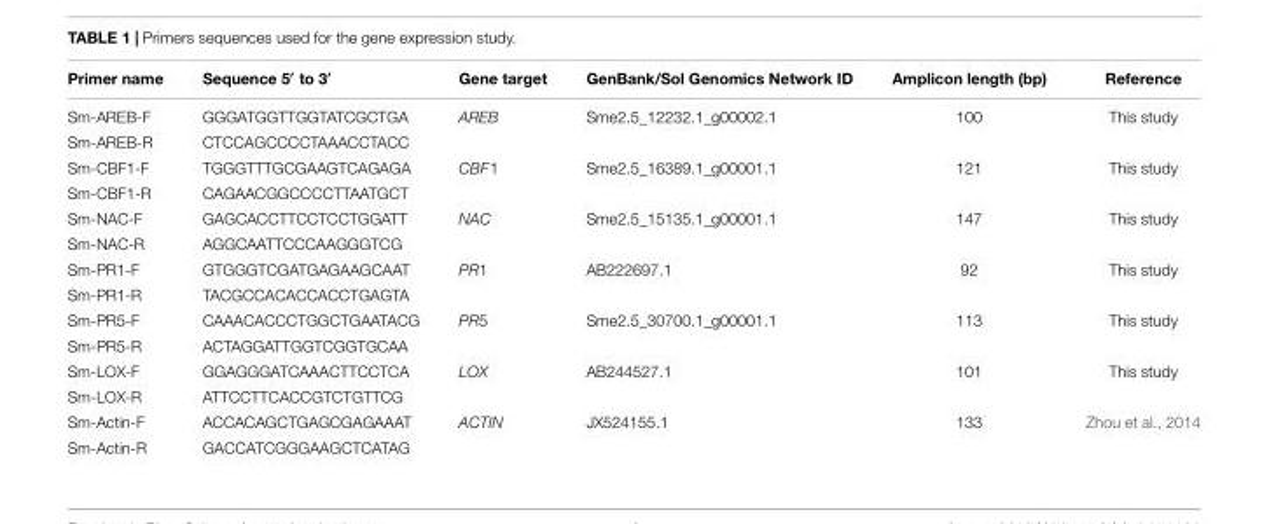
<table><thead><tr><td>Primer name</td><td>Sequence 5′ to 3′</td><td>Gene target</td><td>GenBank/Sol Genomics Network ID</td><td>Amplicon length (bp)</td><td>Reference</td></tr></thead><tbody><tr><td>Sm-AREB-F</td><td>GGGATGGTTGGTATCGCTGA</td><td>AREB</td><td>Sme2.5_12232.1_g00002.1</td><td>100</td><td>This study</td></tr><tr><td>Sm-AREB-R</td><td>CTCCAGCCCCTAAACCTACC</td><td></td><td></td><td></td><td></td></tr><tr><td>Sm-CBF1-F</td><td>TGGGTTTGCGAAGTCAGAGA</td><td>CBF1</td><td>Sme2.5_16389.1_g00001.1</td><td>121</td><td>This study</td></tr><tr><td>Sm-CBF1-R</td><td>CAGAACGGCCCCTTAATGCT</td><td></td><td></td><td></td><td></td></tr><tr><td>Sm-NAC-F</td><td>GAGCACCTTCCTCCTGGATT</td><td>NAC</td><td>Sme2.5_15135.1_g00001.1</td><td>147</td><td>This study</td></tr><tr><td>Sm-NAC-R</td><td>AGGCAATTCCCAAGGGTCG</td><td></td><td></td><td></td><td></td></tr><tr><td>Sm-PR1-F</td><td>GTGGGTCGATGAGAAGCAAT</td><td>PR1</td><td>AB222697.1</td><td>92</td><td>This study</td></tr><tr><td>Sm-PR1-R</td><td>TACGCCACACCACCTGAGTA</td><td></td><td></td><td></td><td></td></tr><tr><td>Sm-PR5-F</td><td>CAAACACCCTGGCTGAATACG</td><td>PR5</td><td>Sme2.5_30700.1_g00001.1</td><td>113</td><td>This study</td></tr><tr><td>Sm-PR5-R</td><td>ACTAGGATTGGTCGGTGCAA</td><td></td><td></td><td></td><td></td></tr><tr><td>Sm-LOX-F</td><td>GGAGGGATCAAACTTCCTCA</td><td>LOX</td><td>AB244527.1</td><td>101</td><td>This study</td></tr><tr><td>Sm-LOX-R</td><td>ATTCCTTCACCGTCTGTTCG</td><td></td><td></td><td></td><td></td></tr><tr><td>Sm-Actin-F</td><td>ACCACAGCTGAGCGAGAAAT</td><td>ACTIN</td><td>JX524155.1</td><td>133</td><td>Zhou et al., 2014</td></tr><tr><td>Sm-Actin-R</td><td>GACCATCGGGAAGCTCATAG</td><td></td><td></td><td></td><td></td></tr></tbody></table>